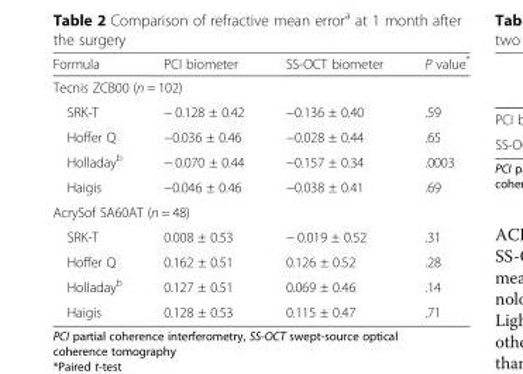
<table><thead><tr><td>Formula</td><td>PCI biometer</td><td>SS-OCT biometer</td><td>P value*</td></tr></thead><tbody><tr><td colspan="4">Tecnis ZCB00 (n = 102)</td></tr><tr><td>SRK-T</td><td>− 0.128 ± 0.42</td><td>−0.136 ± 0.40</td><td>.59</td></tr><tr><td>Hoffer Q</td><td>−0.036 ± 0.46</td><td>−0.028 ± 0.44</td><td>.65</td></tr><tr><td>Holladay<sup>b</sup></td><td>− 0.070 ± 0.44</td><td>−0.157 ± 0.34</td><td>.0003</td></tr><tr><td>Haigis</td><td>−0.046 ± 0.46</td><td>−0.038 ± 0.41</td><td>.69</td></tr><tr><td colspan="4">AcrySof SA60AT (n = 48)</td></tr><tr><td>SRK-T</td><td>0.008 ± 0.53</td><td>− 0.019 ± 0.52</td><td>.31</td></tr><tr><td>Hoffer Q</td><td>0.162 ± 0.51</td><td>0.126 ± 0.52</td><td>.28</td></tr><tr><td>Holladay<sup>b</sup></td><td>0.127 ± 0.51</td><td>0.069 ± 0.46</td><td>.14</td></tr><tr><td>Haigis</td><td>0.128 ± 0.53</td><td>0.115 ± 0.47</td><td>.71</td></tr></tbody></table>